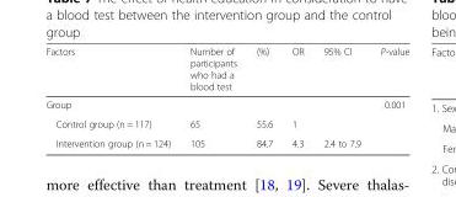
<table><thead><tr><td>Factors</td><td>Number of participants who had a blood test</td><td>(%)</td><td>OR</td><td>95% CI</td><td>P-value</td></tr></thead><tbody><tr><td colspan="5">Group</td><td rowspan="3">0.001</td></tr><tr><td>Control group (n = 117)</td><td>65</td><td>55.6</td><td>1</td><td></td></tr><tr><td>Intervention group (n = 124)</td><td>105</td><td>84.7</td><td>4.3</td><td>2.4 to 7.9</td></tr></tbody></table>